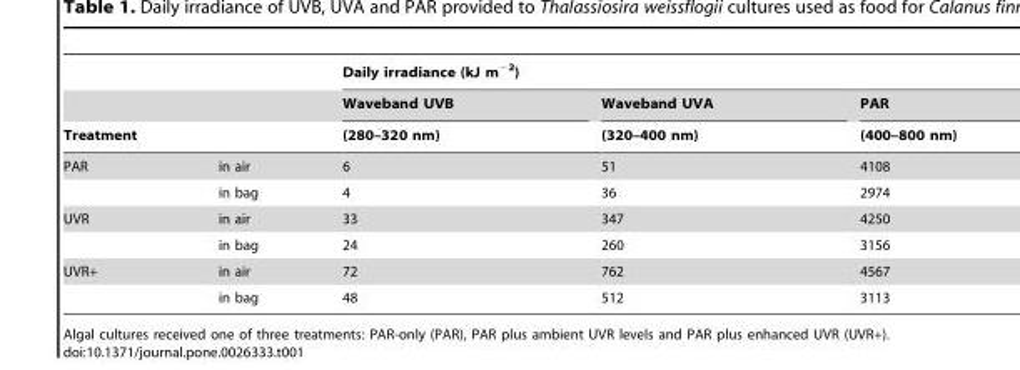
<table><thead><tr><td rowspan="3">Treatment</td><td rowspan="3"></td><td colspan="3">Daily irradiance (kJ m<sup>−2</sup>)</td></tr><tr><td rowspan="2">Waveband UVB (280–320 nm)</td><td rowspan="2">Waveband UVA (320–400 nm)</td><td rowspan="2">PAR (400–800 nm)</td></tr><tr></tr></thead><tbody><tr><td rowspan="2">PAR</td><td>in air</td><td>6</td><td>51</td><td>4108</td></tr><tr><td>in bag</td><td>4</td><td>36</td><td>2974</td></tr><tr><td rowspan="2">UVR</td><td>in air</td><td>33</td><td>347</td><td>4250</td></tr><tr><td>in bag</td><td>24</td><td>260</td><td>3156</td></tr><tr><td rowspan="2">UVR+</td><td>in air</td><td>72</td><td>762</td><td>4567</td></tr><tr><td>in bag</td><td>48</td><td>512</td><td>3113</td></tr></tbody></table>